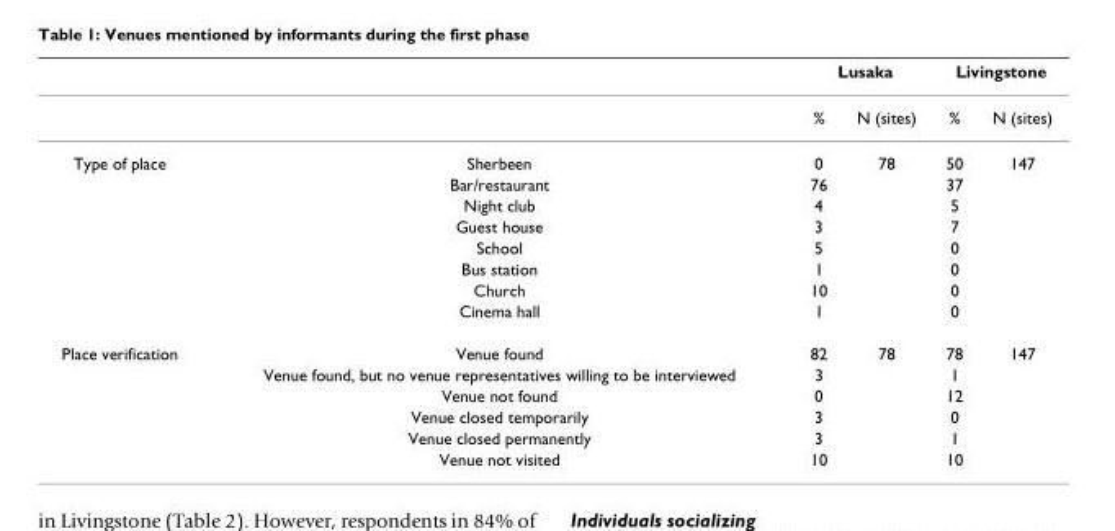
<table><thead><tr><td rowspan="2"></td><td rowspan="2"></td><td colspan="2">Lusaka</td><td colspan="2">Livingstone</td></tr><tr><td>%</td><td>N (sites)</td><td>%</td><td>N (sites)</td></tr></thead><tbody><tr><td rowspan="8">Type of place</td><td>Sherbeen</td><td>0</td><td>78</td><td>50</td><td>147</td></tr><tr><td>Bar/restaurant</td><td>76</td><td></td><td>37</td><td></td></tr><tr><td>Night club</td><td>4</td><td></td><td>5</td><td></td></tr><tr><td>Guest house</td><td>3</td><td></td><td>7</td><td></td></tr><tr><td>School</td><td>5</td><td></td><td>0</td><td></td></tr><tr><td>Bus station</td><td>1</td><td></td><td>0</td><td></td></tr><tr><td>Church</td><td>10</td><td></td><td>0</td><td></td></tr><tr><td>Cinema hall</td><td>1</td><td></td><td>0</td><td></td></tr><tr><td rowspan="6">Place verification</td><td>Venue found</td><td>82</td><td>78</td><td>78</td><td>147</td></tr><tr><td>Venue found, but no venue representatives willing to be interviewed</td><td>3</td><td></td><td>1</td><td></td></tr><tr><td>Venue not found</td><td>0</td><td></td><td>12</td><td></td></tr><tr><td>Venue closed temporarily</td><td>3</td><td></td><td>0</td><td></td></tr><tr><td>Venue closed permanently</td><td>3</td><td></td><td>1</td><td></td></tr><tr><td>Venue not visited</td><td>10</td><td></td><td>10</td><td></td></tr></tbody></table>